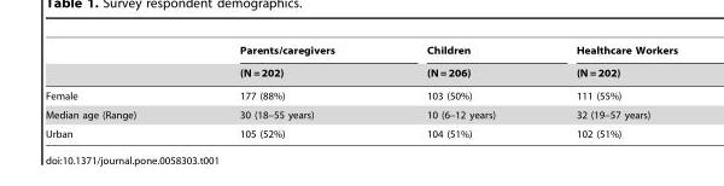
<table><thead><tr><td rowspan="2"></td><td rowspan="2">Parents/caregivers (N = 202)</td><td rowspan="2">Children (N = 206)</td><td rowspan="2">Healthcare Workers (N = 202)</td></tr><tr></tr></thead><tbody><tr><td>Female</td><td>177 (88%)</td><td>103 (50%)</td><td>111 (55%)</td></tr><tr><td>Median age (Range)</td><td>30 (18–55 years)</td><td>10 (6–12 years)</td><td>32 (19–57 years)</td></tr><tr><td>Urban</td><td>105 (52%)</td><td>104 (51%)</td><td>102 (51%)</td></tr></tbody></table>